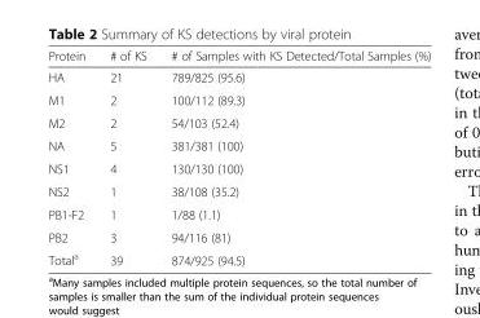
<table><thead><tr><td>Protein</td><td># of KS</td><td># of Samples with KS Detected/Total Samples (%)</td></tr></thead><tbody><tr><td>HA</td><td>21</td><td>789/825 (95.6)</td></tr><tr><td>M1</td><td>2</td><td>100/112 (89.3)</td></tr><tr><td>M2</td><td>2</td><td>54/103 (52.4)</td></tr><tr><td>NA</td><td>5</td><td>381/381 (100)</td></tr><tr><td>NS1</td><td>4</td><td>130/130 (100)</td></tr><tr><td>NS2</td><td>1</td><td>38/108 (35.2)</td></tr><tr><td>PB1-F2</td><td>1</td><td>1/88 (1.1)</td></tr><tr><td>PB2</td><td>3</td><td>94/116 (81)</td></tr><tr><td>Total<sup>a</sup></td><td>39</td><td>874/925 (94.5)</td></tr></tbody></table>